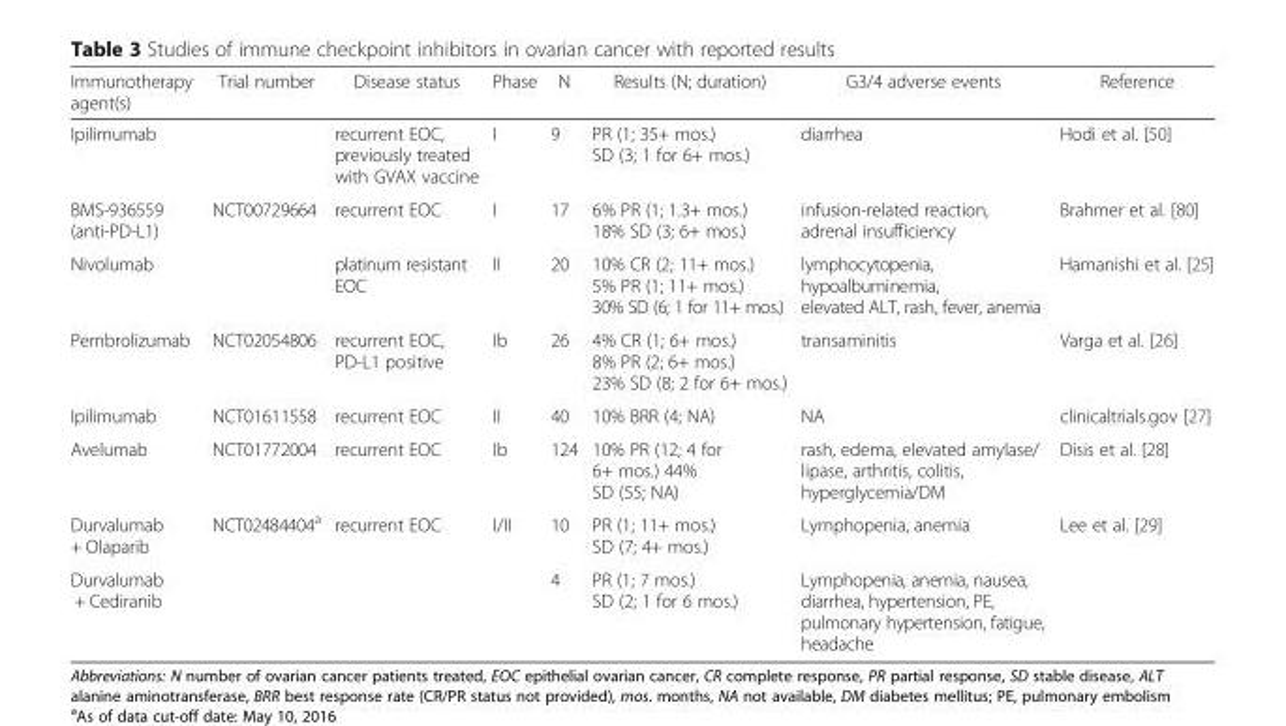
<table><thead><tr><td>Immunotherapy agent(s)</td><td>Trial number</td><td>Disease status</td><td>Phase</td><td>N</td><td>Results (N; duration)</td><td>G3/4 adverse events</td><td>Reference</td></tr></thead><tbody><tr><td>Ipilimumab</td><td></td><td>recurrent EOC, previously treated with GVAX vaccine</td><td>I</td><td>9</td><td>PR (1; 35+ mos.) SD (3; 1 for 6+ mos.)</td><td>diarrhea</td><td>Hodi et al. [50]</td></tr><tr><td>BMS-936559 (anti-PD-L1)</td><td>NCT00729664</td><td>recurrent EOC</td><td>I</td><td>17</td><td>6% PR (1; 1.3+ mos.) 18% SD (3; 6+ mos.)</td><td>infusion-related reaction, adrenal insufficiency</td><td>Brahmer et al. [80]</td></tr><tr><td>Nivolumab</td><td></td><td>platinum resistant EOC</td><td>II</td><td>20</td><td>10% CR (2; 11+ mos.) 5% PR (1; 11+ mos.) 30% SD (6; 1 for 11+ mos.)</td><td>lymphocytopenia, hypoalbuminemia, elevated ALT, rash, fever, anemia</td><td>Hamanishi et al. [25]</td></tr><tr><td>Pembrolizumab</td><td>NCT02054806</td><td>recurrent EOC, PD-L1 positive</td><td>Ib</td><td>26</td><td>4% CR (1; 6+ mos.) 8% PR (2; 6+ mos.) 23% SD (8; 2 for 6+ mos.)</td><td>transaminitis</td><td>Varga et al. [26]</td></tr><tr><td>Ipilimumab</td><td>NCT01611558</td><td>recurrent EOC</td><td>II</td><td>40</td><td>10% BRR (4; NA)</td><td>NA</td><td>clinicaltrials.gov [27]</td></tr><tr><td>Avelumab</td><td>NCT01772004</td><td>recurrent EOC</td><td>Ib</td><td>124</td><td>10% PR (12; 4 for 6+ mos.) 44% SD (55; NA)</td><td>rash, edema, elevated amylase/ lipase, arthritis, colitis, hyperglycemia/DM</td><td>Disis et al. [28]</td></tr><tr><td>Durvalumab + Olaparib</td><td rowspan="2">NCT02484404<sup>a</sup></td><td rowspan="2">recurrent EOC</td><td rowspan="2">I/II</td><td>10</td><td>PR (1; 11+ mos.) SD (7; 4+ mos.)</td><td>Lymphopenia, anemia</td><td rowspan="2">Lee et al. [29]</td></tr><tr><td>Durvalumab + Cediranib</td><td>4</td><td>PR (1; 7 mos.) SD (2; 1 for 6 mos.)</td><td>Lymphopenia, anemia, nausea, diarrhea, hypertension, PE, pulmonary hypertension, fatigue, headache</td></tr></tbody></table>